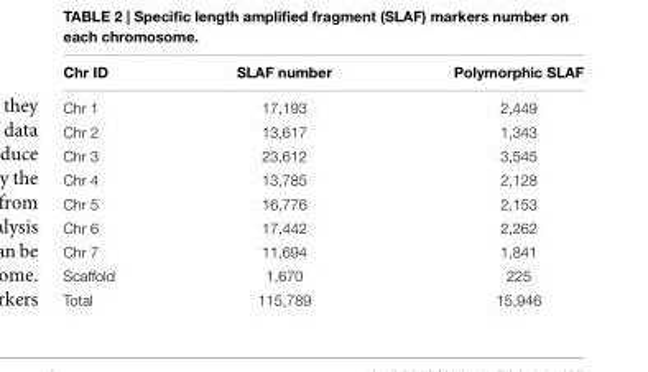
<table><thead><tr><td>Chr ID</td><td>SLAF number</td><td>Polymorphic SLAF</td></tr></thead><tbody><tr><td>Chr 1</td><td>17,193</td><td>2,449</td></tr><tr><td>Chr 2</td><td>13,617</td><td>1,343</td></tr><tr><td>Chr 3</td><td>23,612</td><td>3,545</td></tr><tr><td>Chr 4</td><td>13,785</td><td>2,128</td></tr><tr><td>Chr 5</td><td>16,776</td><td>2,153</td></tr><tr><td>Chr 6</td><td>17,442</td><td>2,262</td></tr><tr><td>Chr 7</td><td>11,694</td><td>1,841</td></tr><tr><td>Scaffold</td><td>1,670</td><td>225</td></tr><tr><td>Total</td><td>115,789</td><td>15,946</td></tr></tbody></table>